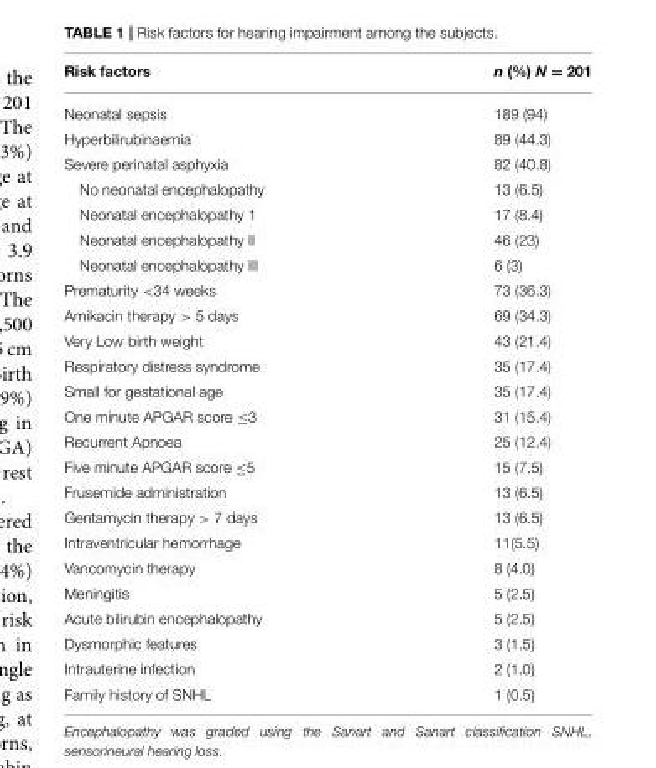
<table><thead><tr><td>Risk factors</td><td>n (%) N = 201</td></tr></thead><tbody><tr><td>Neonatal sepsis</td><td>189 (94)</td></tr><tr><td>Hyperbilirubinaemia</td><td>89 (44.3)</td></tr><tr><td>Severe perinatal asphyxia</td><td>82 (40.8)</td></tr><tr><td>No neonatal encephalopathy</td><td>13 (6.5)</td></tr><tr><td>Neonatal encephalopathy 1</td><td>17 (8.4)</td></tr><tr><td>Neonatal encephalopathy II</td><td>46 (23)</td></tr><tr><td>Neonatal encephalopathy III</td><td>6 (3)</td></tr><tr><td>Prematurity &lt;34 weeks</td><td>73 (36.3)</td></tr><tr><td>Amikacin therapy &gt; 5 days</td><td>69 (34.3)</td></tr><tr><td>Very Low birth weight</td><td>43 (21.4)</td></tr><tr><td>Respiratory distress syndrome</td><td>35 (17.4)</td></tr><tr><td>Small for gestational age</td><td>35 (17.4)</td></tr><tr><td>One minute APGAR score ≤3</td><td>31 (15.4)</td></tr><tr><td>Recurrent Apnoea</td><td>25 (12.4)</td></tr><tr><td>Five minute APGAR score ≤5</td><td>15 (7.5)</td></tr><tr><td>Frusemide administration</td><td>13 (6.5)</td></tr><tr><td>Gentamycin therapy &gt; 7 days</td><td>13 (6.5)</td></tr><tr><td>Intraventricular hemorrhage</td><td>11(5.5)</td></tr><tr><td>Vancomycin therapy</td><td>8 (4.0)</td></tr><tr><td>Meningitis</td><td>5 (2.5)</td></tr><tr><td>Acute bilirubin encephalopathy</td><td>5 (2.5)</td></tr><tr><td>Dysmorphic features</td><td>3 (1.5)</td></tr><tr><td>Intrauterine infection</td><td>2 (1.0)</td></tr><tr><td>Family history of SNHL</td><td>1 (0.5)</td></tr></tbody></table>